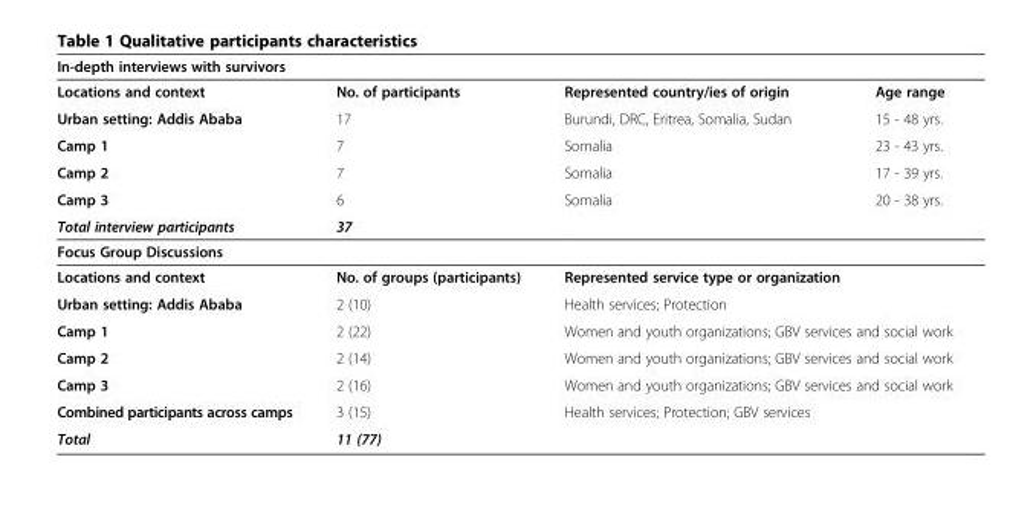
<table><thead><tr><td colspan="4">In-depth interviews with survivors</td></tr><tr><td>Locations and context</td><td>No. of participants</td><td>Represented country/ies of origin</td><td>Age range</td></tr></thead><tbody><tr><td>Urban setting: Addis Ababa</td><td>17</td><td>Burundi, DRC, Eritrea, Somalia, Sudan</td><td>15 - 48 yrs.</td></tr><tr><td>Camp 1</td><td>7</td><td>Somalia</td><td>23 - 43 yrs.</td></tr><tr><td>Camp 2</td><td>7</td><td>Somalia</td><td>17 - 39 yrs.</td></tr><tr><td>Camp 3</td><td>6</td><td>Somalia</td><td>20 - 38 yrs.</td></tr><tr><td>Total interview participants</td><td>37</td><td colspan="2"></td></tr><tr><td colspan="4">Focus Group Discussions</td></tr><tr><td>Locations and context</td><td>No. of groups (participants)</td><td colspan="2">Represented service type or organization</td></tr><tr><td>Urban setting: Addis Ababa</td><td>2 (10)</td><td colspan="2">Health services; Protection</td></tr><tr><td>Camp 1</td><td>2 (22)</td><td colspan="2">Women and youth organizations; GBV services and social work</td></tr><tr><td>Camp 2</td><td>2 (14)</td><td colspan="2">Women and youth organizations; GBV services and social work</td></tr><tr><td>Camp 3</td><td>2 (16)</td><td colspan="2">Women and youth organizations; GBV services and social work</td></tr><tr><td>Combined participants across camps</td><td>3 (15)</td><td colspan="2">Health services; Protection; GBV services</td></tr><tr><td>Total</td><td>11 (77)</td><td colspan="2"></td></tr></tbody></table>